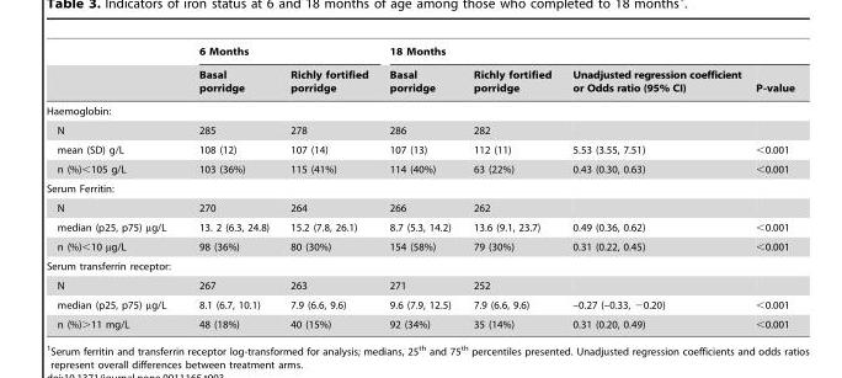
<table><thead><tr><td rowspan="2"></td><td colspan="2">6 Months</td><td colspan="4">18 Months</td></tr><tr><td>Basal porridge</td><td>Richly fortified porridge</td><td>Basal porridge</td><td>Richly fortified porridge</td><td>Unadjusted regression coefficient or Odds ratio (95% CI)</td><td>P-value</td></tr></thead><tbody><tr><td colspan="7">Haemoglobin:</td></tr><tr><td>N</td><td>285</td><td>278</td><td>286</td><td>282</td><td></td><td></td></tr><tr><td>mean (SD) g/L</td><td>108 (12)</td><td>107 (14)</td><td>107 (13)</td><td>112 (11)</td><td>5.53 (3.55, 7.51)</td><td>&lt;0.001</td></tr><tr><td>n (%)&lt;105 g/L</td><td>103 (36%)</td><td>115 (41%)</td><td>114 (40%)</td><td>63 (22%)</td><td>0.43 (0.30, 0.63)</td><td>&lt;0.001</td></tr><tr><td colspan="7">Serum Ferritin:</td></tr><tr><td>N</td><td>270</td><td>264</td><td>266</td><td>262</td><td></td><td></td></tr><tr><td>median (p25, p75) µg/L</td><td>13. 2 (6.3, 24.8)</td><td>15.2 (7.8, 26.1)</td><td>8.7 (5.3, 14.2)</td><td>13.6 (9.1, 23.7)</td><td>0.49 (0.36, 0.62)</td><td>&lt;0.001</td></tr><tr><td>n (%)&lt;10 µg/L</td><td>98 (36%)</td><td>80 (30%)</td><td>154 (58%)</td><td>79 (30%)</td><td>0.31 (0.22, 0.45)</td><td>&lt;0.001</td></tr><tr><td colspan="7">Serum transferrin receptor:</td></tr><tr><td>N</td><td>267</td><td>263</td><td>271</td><td>252</td><td></td><td></td></tr><tr><td>median (p25, p75) µg/L</td><td>8.1 (6.7, 10.1)</td><td>7.9 (6.6, 9.6)</td><td>9.6 (7.9, 12.5)</td><td>7.9 (6.6, 9.6)</td><td>–0.27 (–0.33, −0.20)</td><td>&lt;0.001</td></tr><tr><td>n (%)&gt;11 mg/L</td><td>48 (18%)</td><td>40 (15%)</td><td>92 (34%)</td><td>35 (14%)</td><td>0.31 (0.20, 0.49)</td><td>&lt;0.001</td></tr></tbody></table>